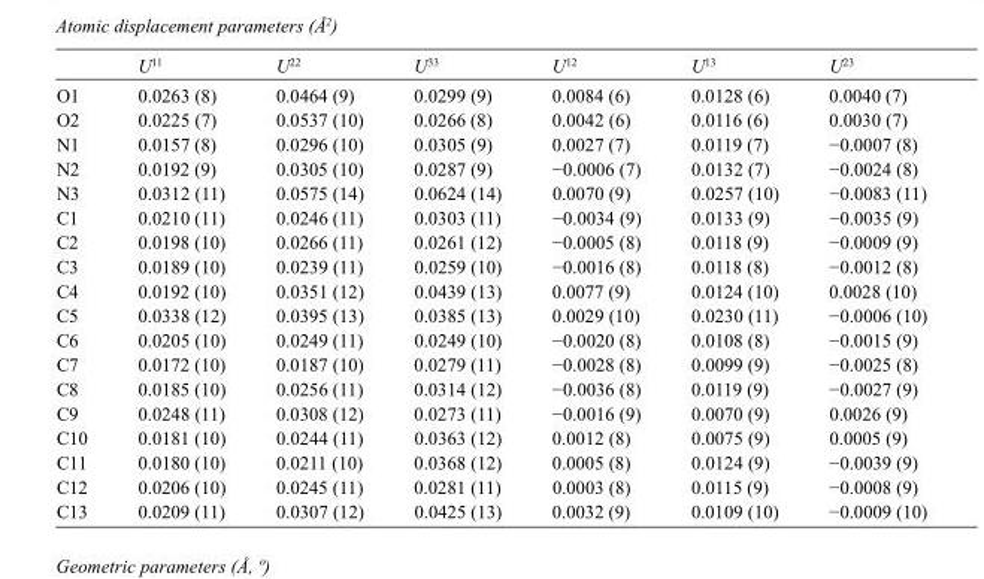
<table><thead><tr><td></td><td>U<sup>11</sup></td><td>U<sup>22</sup></td><td>U<sup>33</sup></td><td>U<sup>12</sup></td><td>U<sup>13</sup></td><td>U<sup>23</sup></td></tr></thead><tbody><tr><td>O1</td><td>0.0263 (8)</td><td>0.0464 (9)</td><td>0.0299 (9)</td><td>0.0084 (6)</td><td>0.0128 (6)</td><td>0.0040 (7)</td></tr><tr><td>O2</td><td>0.0225 (7)</td><td>0.0537 (10)</td><td>0.0266 (8)</td><td>0.0042 (6)</td><td>0.0116 (6)</td><td>0.0030 (7)</td></tr><tr><td>N1</td><td>0.0157 (8)</td><td>0.0296 (10)</td><td>0.0305 (9)</td><td>0.0027 (7)</td><td>0.0119 (7)</td><td>−0.0007 (8)</td></tr><tr><td>N2</td><td>0.0192 (9)</td><td>0.0305 (10)</td><td>0.0287 (9)</td><td>−0.0006 (7)</td><td>0.0132 (7)</td><td>−0.0024 (8)</td></tr><tr><td>N3</td><td>0.0312 (11)</td><td>0.0575 (14)</td><td>0.0624 (14)</td><td>0.0070 (9)</td><td>0.0257 (10)</td><td>−0.0083 (11)</td></tr><tr><td>C1</td><td>0.0210 (11)</td><td>0.0246 (11)</td><td>0.0303 (11)</td><td>−0.0034 (9)</td><td>0.0133 (9)</td><td>−0.0035 (9)</td></tr><tr><td>C2</td><td>0.0198 (10)</td><td>0.0266 (11)</td><td>0.0261 (12)</td><td>−0.0005 (8)</td><td>0.0118 (9)</td><td>−0.0009 (9)</td></tr><tr><td>C3</td><td>0.0189 (10)</td><td>0.0239 (11)</td><td>0.0259 (10)</td><td>−0.0016 (8)</td><td>0.0118 (8)</td><td>−0.0012 (8)</td></tr><tr><td>C4</td><td>0.0192 (10)</td><td>0.0351 (12)</td><td>0.0439 (13)</td><td>0.0077 (9)</td><td>0.0124 (10)</td><td>0.0028 (10)</td></tr><tr><td>C5</td><td>0.0338 (12)</td><td>0.0395 (13)</td><td>0.0385 (13)</td><td>0.0029 (10)</td><td>0.0230 (11)</td><td>−0.0006 (10)</td></tr><tr><td>C6</td><td>0.0205 (10)</td><td>0.0249 (11)</td><td>0.0249 (10)</td><td>−0.0020 (8)</td><td>0.0108 (8)</td><td>−0.0015 (9)</td></tr><tr><td>C7</td><td>0.0172 (10)</td><td>0.0187 (10)</td><td>0.0279 (11)</td><td>−0.0028 (8)</td><td>0.0099 (9)</td><td>−0.0025 (8)</td></tr><tr><td>C8</td><td>0.0185 (10)</td><td>0.0256 (11)</td><td>0.0314 (12)</td><td>−0.0036 (8)</td><td>0.0119 (9)</td><td>−0.0027 (9)</td></tr><tr><td>C9</td><td>0.0248 (11)</td><td>0.0308 (12)</td><td>0.0273 (11)</td><td>−0.0016 (9)</td><td>0.0070 (9)</td><td>0.0026 (9)</td></tr><tr><td>C10</td><td>0.0181 (10)</td><td>0.0244 (11)</td><td>0.0363 (12)</td><td>0.0012 (8)</td><td>0.0075 (9)</td><td>0.0005 (9)</td></tr><tr><td>C11</td><td>0.0180 (10)</td><td>0.0211 (10)</td><td>0.0368 (12)</td><td>0.0005 (8)</td><td>0.0124 (9)</td><td>−0.0039 (9)</td></tr><tr><td>C12</td><td>0.0206 (10)</td><td>0.0245 (11)</td><td>0.0281 (11)</td><td>0.0003 (8)</td><td>0.0115 (9)</td><td>−0.0008 (9)</td></tr><tr><td>C13</td><td>0.0209 (11)</td><td>0.0307 (12)</td><td>0.0425 (13)</td><td>0.0032 (9)</td><td>0.0109 (10)</td><td>−0.0009 (10)</td></tr></tbody></table>